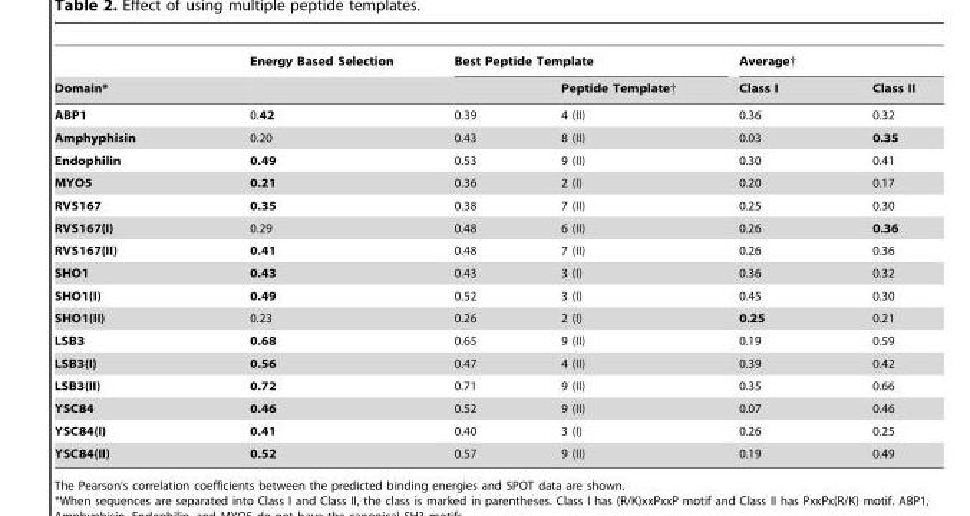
<table><thead><tr><td rowspan="2">Domain*</td><td rowspan="2">Energy Based Selection</td><td colspan="2">Best Peptide Template</td><td colspan="2">Average†</td></tr><tr><td></td><td>Peptide Template†</td><td>Class I</td><td>Class II</td></tr></thead><tbody><tr><td>ABP1</td><td>0.42</td><td>0.39</td><td>4 (II)</td><td>0.36</td><td>0.32</td></tr><tr><td>Amphyphisin</td><td>0.20</td><td>0.43</td><td>8 (II)</td><td>0.03</td><td>0.35</td></tr><tr><td>Endophilin</td><td>0.49</td><td>0.53</td><td>9 (II)</td><td>0.30</td><td>0.41</td></tr><tr><td>MYO5</td><td>0.21</td><td>0.36</td><td>2 (I)</td><td>0.20</td><td>0.17</td></tr><tr><td>RVS167</td><td>0.35</td><td>0.38</td><td>7 (II)</td><td>0.25</td><td>0.30</td></tr><tr><td>RVS167(I)</td><td>0.29</td><td>0.48</td><td>6 (II)</td><td>0.26</td><td>0.36</td></tr><tr><td>RVS167(II)</td><td>0.41</td><td>0.48</td><td>7 (II)</td><td>0.26</td><td>0.36</td></tr><tr><td>SHO1</td><td>0.43</td><td>0.43</td><td>3 (I)</td><td>0.36</td><td>0.32</td></tr><tr><td>SHO1(I)</td><td>0.49</td><td>0.52</td><td>3 (I)</td><td>0.45</td><td>0.30</td></tr><tr><td>SHO1(II)</td><td>0.23</td><td>0.26</td><td>2 (I)</td><td>0.25</td><td>0.21</td></tr><tr><td>LSB3</td><td>0.68</td><td>0.65</td><td>9 (II)</td><td>0.19</td><td>0.59</td></tr><tr><td>LSB3(I)</td><td>0.56</td><td>0.47</td><td>4 (II)</td><td>0.39</td><td>0.42</td></tr><tr><td>LSB3(II)</td><td>0.72</td><td>0.71</td><td>9 (II)</td><td>0.35</td><td>0.66</td></tr><tr><td>YSC84</td><td>0.46</td><td>0.52</td><td>9 (II)</td><td>0.07</td><td>0.46</td></tr><tr><td>YSC84(I)</td><td>0.41</td><td>0.40</td><td>3 (I)</td><td>0.26</td><td>0.25</td></tr><tr><td>YSC84(II)</td><td>0.52</td><td>0.57</td><td>9 (II)</td><td>0.19</td><td>0.49</td></tr></tbody></table>